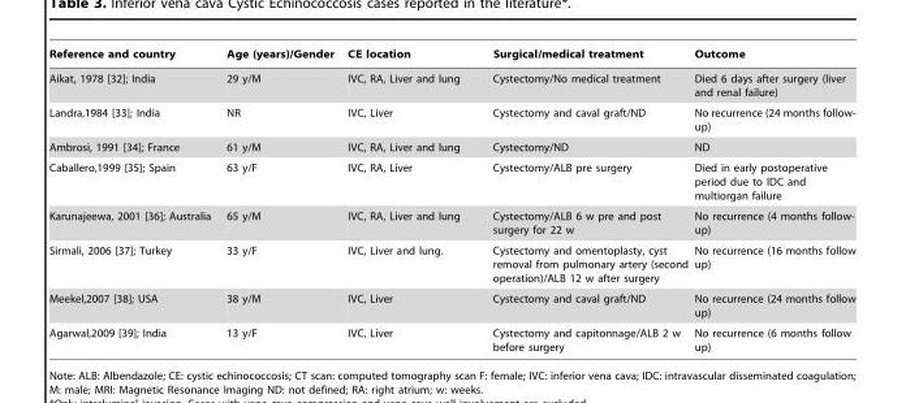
<table><thead><tr><td>Reference and country</td><td>Age (years)/Gender</td><td>CE location</td><td>Surgical/medical treatment</td><td>Outcome</td></tr></thead><tbody><tr><td>Aikat, 1978 [32]; India</td><td>29 y/M</td><td>IVC, RA, Liver and lung</td><td>Cystectomy/No medical treatment</td><td>Died 6 days after surgery (liver and renal failure)</td></tr><tr><td>Landra,1984 [33]; India</td><td>NR</td><td>IVC, Liver</td><td>Cystectomy and caval graft/ND</td><td>No recurrence (24 months follow- up)</td></tr><tr><td>Ambrosi, 1991 [34]; France</td><td>61 y/M</td><td>IVC, RA, Liver and lung</td><td>Cystectomy/ND</td><td>ND</td></tr><tr><td>Caballero,1999 [35]; Spain</td><td>63 y/F</td><td>IVC, RA, Liver</td><td>Cystectomy/ALB pre surgery</td><td>Died in early postoperative period due to IDC and multiorgan failure</td></tr><tr><td>Karunajeewa, 2001 [36]; Australia</td><td>65 y/M</td><td>IVC, RA, Liver and lung</td><td>Cystectomy/ALB 6 w pre and post surgery for 22 w</td><td>No recurrence (4 months follow- up)</td></tr><tr><td>Sirmali, 2006 [37]; Turkey</td><td>33 y/F</td><td>IVC, Liver and lung.</td><td>Cystectomy and omentoplasty, cyst removal from pulmonary artery (second operation)/ALB 12 w after surgery</td><td>No recurrence (16 months follow up)</td></tr><tr><td>Meekel,2007 [38]; USA</td><td>38 y/M</td><td>IVC, Liver</td><td>Cystectomy and caval graft/ND</td><td>No recurrence (24 months follow up)</td></tr><tr><td>Agarwal,2009 [39]; India</td><td>13 y/F</td><td>IVC, Liver</td><td>Cystectomy and capitonnage/ALB 2 w before surgery</td><td>No recurrence (6 months follow up)</td></tr></tbody></table>